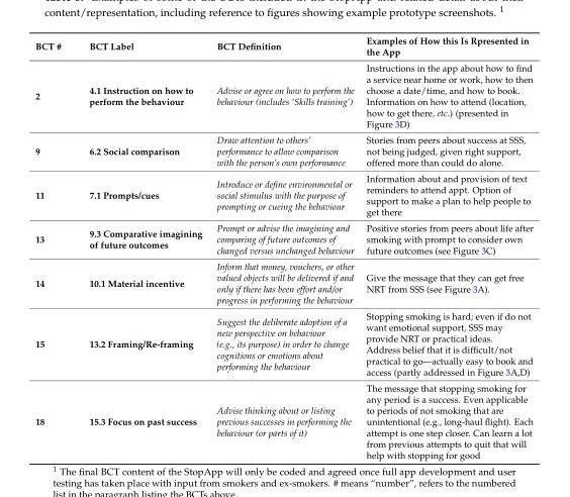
<table><thead><tr><td>BCT #</td><td>BCT Label</td><td>BCT Definition</td><td>Examples of How this Is Rpresented in the App</td></tr></thead><tbody><tr><td>2</td><td>4.1 Instruction on how to perform the behaviour</td><td>Advise or agree on how to perform the behaviour (includes ‘Skills training’)</td><td>Instructions in the app about how to find a service near home or work, how to then choose a date/time, and how to book. Information on how to attend (location, how to get there, etc.) (presented in Figure 3D)</td></tr><tr><td>9</td><td>6.2 Social comparison</td><td>Draw attention to others’ performance to allow comparison with the person’s own performance</td><td>Stories from peers about success at SSS, not being judged, given right support, offered more than could do alone.</td></tr><tr><td>11</td><td>7.1 Prompts/cues</td><td>Introduce or define environmental or social stimulus with the purpose of prompting or cueing the behaviour</td><td>Information about and provision of text reminders to attend appt. Option of support to make a plan to help people to get there</td></tr><tr><td>13</td><td>9.3 Comparative imagining of future outcomes</td><td>Prompt or advise the imagining and comparing of future outcomes of changed versus unchanged behaviour</td><td>Positive stories from peers about life after smoking with prompt to consider own future outcomes (see Figure 3C)</td></tr><tr><td>14</td><td>10.1 Material incentive</td><td>Inform that money, vouchers, or other valued objects will be delivered if and only if there has been effort and/or progress in performing the behaviour</td><td>Give the message that they can get free NRT from SSS (see Figure 3A).</td></tr><tr><td>15</td><td>13.2 Framing/Re-framing</td><td>Suggest the deliberate adoption of a new perspective on behaviour (e.g., its purpose) in order to change cognitions or emotions about performing the behaviour</td><td>Stopping smoking is hard; even if do not want emotional support, SSS may provide NRT or practical ideas. Address belief that it is difficult/not practical to go—actually easy to book and access (partly addressed in Figure 3A,D)</td></tr><tr><td>18</td><td>15.3 Focus on past success</td><td>Advise thinking about or listing previous successes in performing the behaviour (or parts of it)</td><td>The message that stopping smoking for any period is a success. Even applicable to periods of not smoking that are unintentional (e.g., long-haul flight). Each attempt is one step closer. Can learn a lot from previous attempts to quit that will help with stopping for good</td></tr></tbody></table>